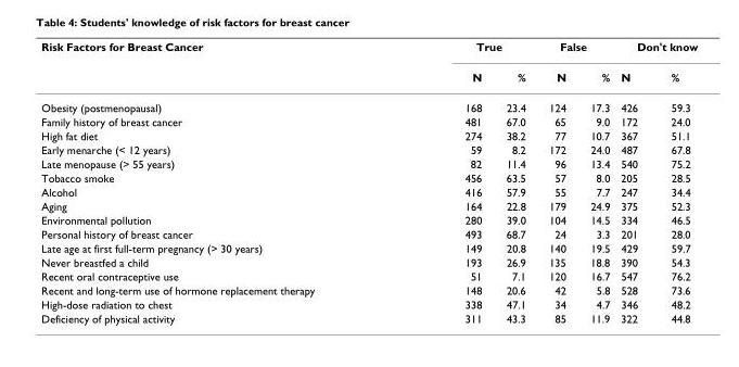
<table><thead><tr><td rowspan="2">Risk Factors for Breast Cancer</td><td colspan="2">True</td><td colspan="2">False</td><td colspan="2">Don&#x27;t know</td></tr><tr><td>N</td><td>%</td><td>N</td><td>%</td><td>N</td><td>%</td></tr></thead><tbody><tr><td>Obesity (postmenopausal)</td><td>168</td><td>23.4</td><td>124</td><td>17.3</td><td>426</td><td>59.3</td></tr><tr><td>Family history of breast cancer</td><td>481</td><td>67.0</td><td>65</td><td>9.0</td><td>172</td><td>24.0</td></tr><tr><td>High fat diet</td><td>274</td><td>38.2</td><td>77</td><td>10.7</td><td>367</td><td>51.1</td></tr><tr><td>Early menarche (&lt; 12 years)</td><td>59</td><td>8.2</td><td>172</td><td>24.0</td><td>487</td><td>67.8</td></tr><tr><td>Late menopause (&gt; 55 years)</td><td>82</td><td>11.4</td><td>96</td><td>13.4</td><td>540</td><td>75.2</td></tr><tr><td>Tobacco smoke</td><td>456</td><td>63.5</td><td>57</td><td>8.0</td><td>205</td><td>28.5</td></tr><tr><td>Alcohol</td><td>416</td><td>57.9</td><td>55</td><td>7.7</td><td>247</td><td>34.4</td></tr><tr><td>Aging</td><td>164</td><td>22.8</td><td>179</td><td>24.9</td><td>375</td><td>52.3</td></tr><tr><td>Environmental pollution</td><td>280</td><td>39.0</td><td>104</td><td>14.5</td><td>334</td><td>46.5</td></tr><tr><td>Personal history of breast cancer</td><td>493</td><td>68.7</td><td>24</td><td>3.3</td><td>201</td><td>28.0</td></tr><tr><td>Late age at first full-term pregnancy (&gt; 30 years)</td><td>149</td><td>20.8</td><td>140</td><td>19.5</td><td>429</td><td>59.7</td></tr><tr><td>Never breastfed a child</td><td>193</td><td>26.9</td><td>135</td><td>18.8</td><td>390</td><td>54.3</td></tr><tr><td>Recent oral contraceptive use</td><td>51</td><td>7.1</td><td>120</td><td>16.7</td><td>547</td><td>76.2</td></tr><tr><td>Recent and long-term use of hormone replacement therapy</td><td>148</td><td>20.6</td><td>42</td><td>5.8</td><td>528</td><td>73.6</td></tr><tr><td>High-dose radiation to chest</td><td>338</td><td>47.1</td><td>34</td><td>4.7</td><td>346</td><td>48.2</td></tr><tr><td>Deficiency of physical activity</td><td>311</td><td>43.3</td><td>85</td><td>11.9</td><td>322</td><td>44.8</td></tr></tbody></table>